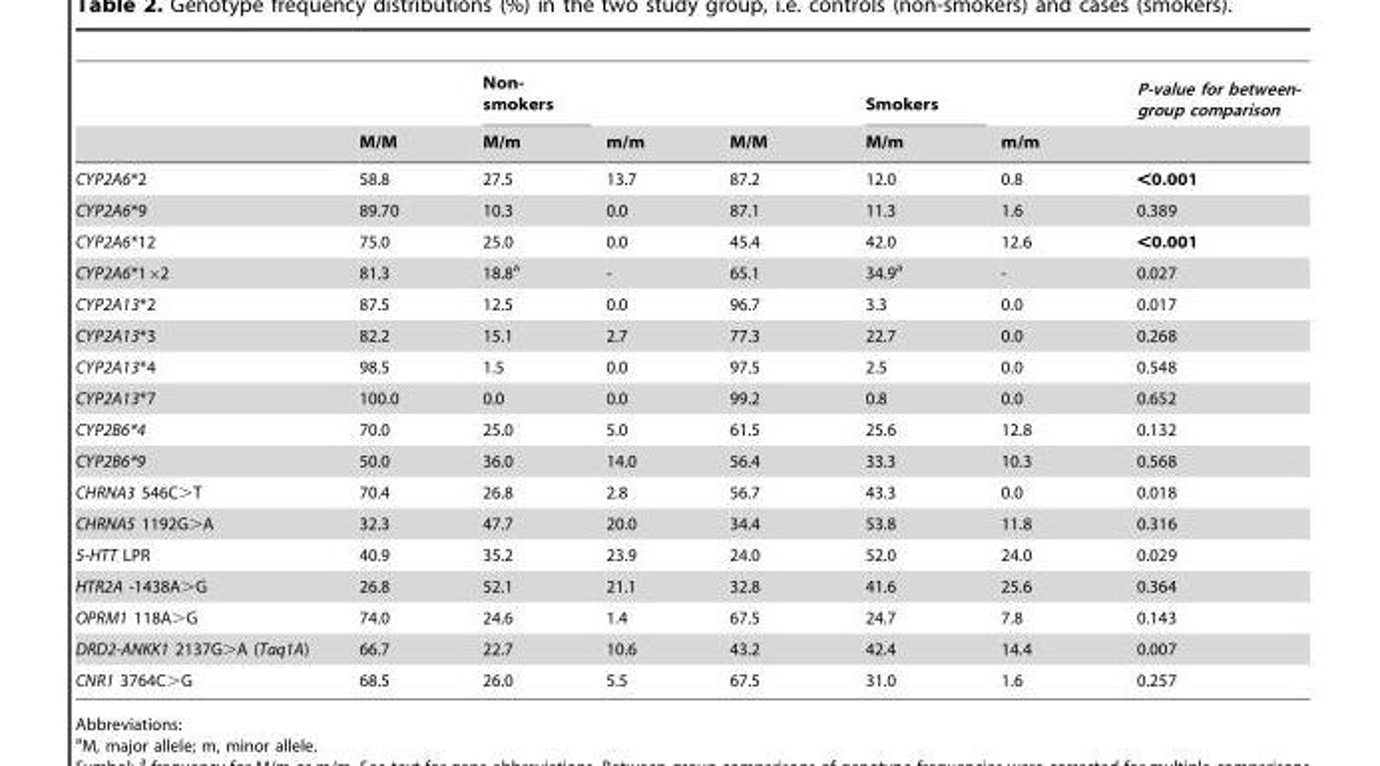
<table><thead><tr><td rowspan="2"></td><td rowspan="2">M/M</td><td rowspan="2">Non- smokers M/m</td><td rowspan="2">m/m</td><td rowspan="2">M/M</td><td rowspan="2">Smokers M/m</td><td rowspan="2">m/m</td><td rowspan="2">P-value for between- group comparison</td></tr><tr></tr></thead><tbody><tr><td>CYP2A6*2</td><td>58.8</td><td>27.5</td><td>13.7</td><td>87.2</td><td>12.0</td><td>0.8</td><td>&lt;0.001</td></tr><tr><td>CYP2A6*9</td><td>89.70</td><td>10.3</td><td>0.0</td><td>87.1</td><td>11.3</td><td>1.6</td><td>0.389</td></tr><tr><td>CYP2A6*12</td><td>75.0</td><td>25.0</td><td>0.0</td><td>45.4</td><td>42.0</td><td>12.6</td><td>&lt;0.001</td></tr><tr><td>CYP2A6*1×2</td><td>81.3</td><td>18.8<sup>a</sup></td><td>-</td><td>65.1</td><td>34.9<sup>a</sup></td><td>-</td><td>0.027</td></tr><tr><td>CYP2A13*2</td><td>87.5</td><td>12.5</td><td>0.0</td><td>96.7</td><td>3.3</td><td>0.0</td><td>0.017</td></tr><tr><td>CYP2A13*3</td><td>82.2</td><td>15.1</td><td>2.7</td><td>77.3</td><td>22.7</td><td>0.0</td><td>0.268</td></tr><tr><td>CYP2A13*4</td><td>98.5</td><td>1.5</td><td>0.0</td><td>97.5</td><td>2.5</td><td>0.0</td><td>0.548</td></tr><tr><td>CYP2A13*7</td><td>100.0</td><td>0.0</td><td>0.0</td><td>99.2</td><td>0.8</td><td>0.0</td><td>0.652</td></tr><tr><td>CYP2B6*4</td><td>70.0</td><td>25.0</td><td>5.0</td><td>61.5</td><td>25.6</td><td>12.8</td><td>0.132</td></tr><tr><td>CYP2B6*9</td><td>50.0</td><td>36.0</td><td>14.0</td><td>56.4</td><td>33.3</td><td>10.3</td><td>0.568</td></tr><tr><td>CHRNA3 546C&gt;T</td><td>70.4</td><td>26.8</td><td>2.8</td><td>56.7</td><td>43.3</td><td>0.0</td><td>0.018</td></tr><tr><td>CHRNA5 1192G&gt;A</td><td>32.3</td><td>47.7</td><td>20.0</td><td>34.4</td><td>53.8</td><td>11.8</td><td>0.316</td></tr><tr><td>5-HTT LPR</td><td>40.9</td><td>35.2</td><td>23.9</td><td>24.0</td><td>52.0</td><td>24.0</td><td>0.029</td></tr><tr><td>HTR2A -1438A&gt;G</td><td>26.8</td><td>52.1</td><td>21.1</td><td>32.8</td><td>41.6</td><td>25.6</td><td>0.364</td></tr><tr><td>OPRM1 118A&gt;G</td><td>74.0</td><td>24.6</td><td>1.4</td><td>67.5</td><td>24.7</td><td>7.8</td><td>0.143</td></tr><tr><td>DRD2-ANKK1 2137G&gt;A (Taq1A)</td><td>66.7</td><td>22.7</td><td>10.6</td><td>43.2</td><td>42.4</td><td>14.4</td><td>0.007</td></tr><tr><td>CNR1 3764C&gt;G</td><td>68.5</td><td>26.0</td><td>5.5</td><td>67.5</td><td>31.0</td><td>1.6</td><td>0.257</td></tr></tbody></table>